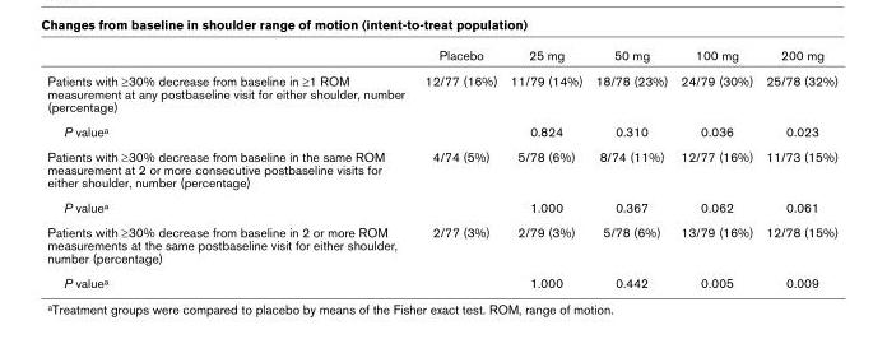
<table><thead><tr><td></td><td>Placebo</td><td>25 mg</td><td>50 mg</td><td>100 mg</td><td>200 mg</td></tr></thead><tbody><tr><td>Patients with ≥30% decrease from baseline in ≥1 ROM measurement at any postbaseline visit for either shoulder, number (percentage)</td><td>12/77 (16%)</td><td>11/79 (14%)</td><td>18/78 (23%)</td><td>24/79 (30%)</td><td>25/78 (32%)</td></tr><tr><td>P value<sup>a</sup></td><td></td><td>0.824</td><td>0.310</td><td>0.036</td><td>0.023</td></tr><tr><td>Patients with ≥30% decrease from baseline in the same ROM measurement at 2 or more consecutive postbaseline visits for either shoulder, number (percentage)</td><td>4/74 (5%)</td><td>5/78 (6%)</td><td>8/74 (11%)</td><td>12/77 (16%)</td><td>11/73 (15%)</td></tr><tr><td>P value<sup>a</sup></td><td></td><td>1.000</td><td>0.367</td><td>0.062</td><td>0.061</td></tr><tr><td>Patients with ≥30% decrease from baseline in 2 or more ROM measurements at the same postbaseline visit for either shoulder, number (percentage)</td><td>2/77 (3%)</td><td>2/79 (3%)</td><td>5/78 (6%)</td><td>13/79 (16%)</td><td>12/78 (15%)</td></tr><tr><td>P value<sup>a</sup></td><td></td><td>1.000</td><td>0.442</td><td>0.005</td><td>0.009</td></tr></tbody></table>